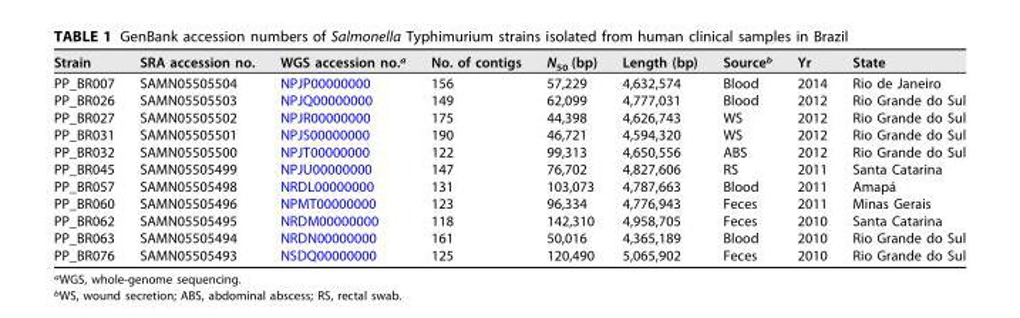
<table><thead><tr><td>Strain</td><td>SRA accession no.</td><td>WGS accession no.<sup>a</sup></td><td>No. of contigs</td><td>N<sub>50</sub> (bp)</td><td>Length (bp)</td><td>Source<sup>b</sup></td><td>Yr</td><td>State</td></tr></thead><tbody><tr><td>PP_BR007</td><td>SAMN05505504</td><td>NPJP00000000</td><td>156</td><td>57,229</td><td>4,632,574</td><td>Blood</td><td>2014</td><td>Rio de Janeiro</td></tr><tr><td>PP_BR026</td><td>SAMN05505503</td><td>NPJQ00000000</td><td>149</td><td>62,099</td><td>4,777,031</td><td>Blood</td><td>2012</td><td>Rio Grande do Sul</td></tr><tr><td>PP_BR027</td><td>SAMN05505502</td><td>NPJR00000000</td><td>175</td><td>44,398</td><td>4,626,743</td><td>WS</td><td>2012</td><td>Rio Grande do Sul</td></tr><tr><td>PP_BR031</td><td>SAMN05505501</td><td>NPJS00000000</td><td>190</td><td>46,721</td><td>4,594,320</td><td>WS</td><td>2012</td><td>Rio Grande do Sul</td></tr><tr><td>PP_BR032</td><td>SAMN05505500</td><td>NPJT00000000</td><td>122</td><td>99,313</td><td>4,650,556</td><td>ABS</td><td>2012</td><td>Rio Grande do Sul</td></tr><tr><td>PP_BR045</td><td>SAMN05505499</td><td>NPJU00000000</td><td>147</td><td>76,702</td><td>4,827,606</td><td>RS</td><td>2011</td><td>Santa Catarina</td></tr><tr><td>PP_BR057</td><td>SAMN05505498</td><td>NRDL00000000</td><td>131</td><td>103,073</td><td>4,787,663</td><td>Blood</td><td>2011</td><td>Amapá</td></tr><tr><td>PP_BR060</td><td>SAMN05505496</td><td>NPMT00000000</td><td>123</td><td>96,334</td><td>4,776,943</td><td>Feces</td><td>2011</td><td>Minas Gerais</td></tr><tr><td>PP_BR062</td><td>SAMN05505495</td><td>NRDM00000000</td><td>118</td><td>142,310</td><td>4,958,705</td><td>Feces</td><td>2010</td><td>Santa Catarina</td></tr><tr><td>PP_BR063</td><td>SAMN05505494</td><td>NRDN00000000</td><td>161</td><td>50,016</td><td>4,365,189</td><td>Blood</td><td>2010</td><td>Rio Grande do Sul</td></tr><tr><td>PP_BR076</td><td>SAMN05505493</td><td>NSDQ00000000</td><td>125</td><td>120,490</td><td>5,065,902</td><td>Feces</td><td>2010</td><td>Rio Grande do Sul</td></tr></tbody></table>